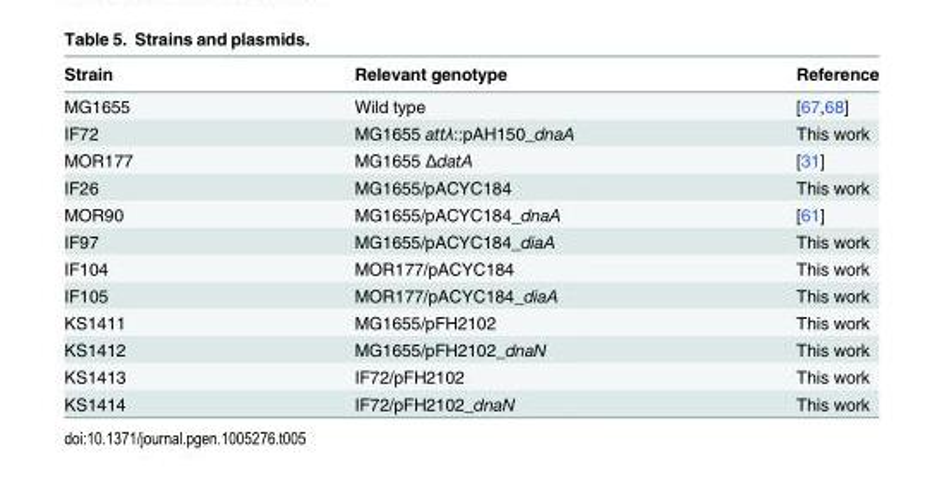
<table><thead><tr><td>Strain</td><td>Relevant genotype</td><td>Reference</td></tr></thead><tbody><tr><td>MG1655</td><td>Wild type</td><td>[67,68]</td></tr><tr><td>IF72</td><td>MG1655 attλ::pAH150_dnaA</td><td>This work</td></tr><tr><td>MOR177</td><td>MG1655 ΔdatA</td><td>[31]</td></tr><tr><td>IF26</td><td>MG1655/pACYC184</td><td>This work</td></tr><tr><td>MOR90</td><td>MG1655/pACYC184_dnaA</td><td>[61]</td></tr><tr><td>IF97</td><td>MG1655/pACYC184_diaA</td><td>This work</td></tr><tr><td>IF104</td><td>MOR177/pACYC184</td><td>This work</td></tr><tr><td>IF105</td><td>MOR177/pACYC184_diaA</td><td>This work</td></tr><tr><td>KS1411</td><td>MG1655/pFH2102</td><td>This work</td></tr><tr><td>KS1412</td><td>MG1655/pFH2102_dnaN</td><td>This work</td></tr><tr><td>KS1413</td><td>IF72/pFH2102</td><td>This work</td></tr><tr><td>KS1414</td><td>IF72/pFH2102_dnaN</td><td>This work</td></tr></tbody></table>